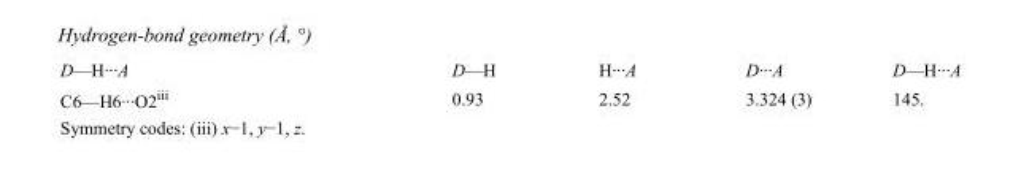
<table><tbody><tr><td>D—H···A</td><td>D—H</td><td>H···A</td><td>D···A</td><td>D—H···A</td></tr><tr><td>C6—H6···O2<sup>iii</sup></td><td>0.93</td><td>2.52</td><td>3.324 (3)</td><td>145.</td></tr></tbody></table>